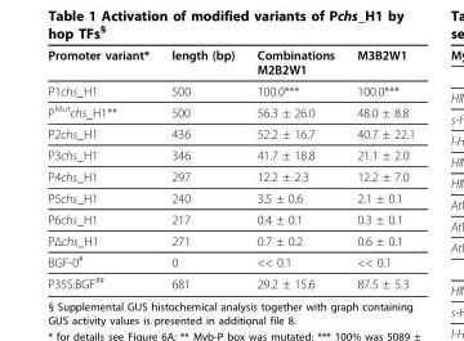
<table><thead><tr><td>Promoter variant*</td><td>length (bp)</td><td>Combinations M2B2W1</td><td>M3B2W1</td></tr></thead><tbody><tr><td>P1chs_H1</td><td>500</td><td>100.0***</td><td>100.0***</td></tr><tr><td>P<sup>Mut</sup>chs_H1**</td><td>500</td><td>56.3 ± 26.0</td><td>48.0 ± 8.8</td></tr><tr><td>P2chs_H1</td><td>436</td><td>52.2 ± 16.7</td><td>40.7 ± 22.1</td></tr><tr><td>P3chs_H1</td><td>346</td><td>41.7 ± 18.8</td><td>21.1 ± 2.0</td></tr><tr><td>P4chs_H1</td><td>297</td><td>12.2 ± 2.3</td><td>12.2 ± 7.0</td></tr><tr><td>P5chs_H1</td><td>240</td><td>3.5 ± 0.6</td><td>2.1 ± 0.1</td></tr><tr><td>P6chs_H1</td><td>217</td><td>0.4 ± 0.1</td><td>0.3 ± 0.1</td></tr><tr><td>PΔchs_H1</td><td>271</td><td>0.7 ± 0.2</td><td>0.6 ± 0.1</td></tr><tr><td>BGF-0<sup>#</sup></td><td>0</td><td>&lt;&lt; 0.1</td><td>&lt;&lt; 0.1</td></tr><tr><td>P35S:BGF<sup>##</sup></td><td>681</td><td>29.2 ± 15.6</td><td>87.5 ± 5.3</td></tr></tbody></table>